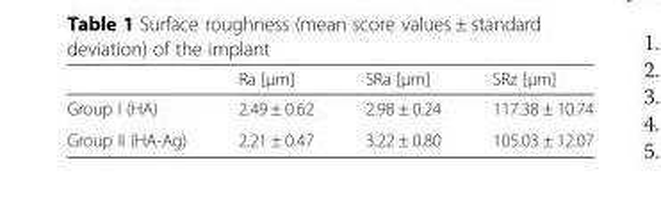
<table><thead><tr><td></td><td>Ra [μm]</td><td>SRa [μm]</td><td>SRz [μm]</td></tr></thead><tbody><tr><td>Group I (HA)</td><td>2.49 ± 0.62</td><td>2.98 ± 0.24</td><td>117.38 ± 10.74</td></tr><tr><td>Group II (HA-Ag)</td><td>2.21 ± 0.47</td><td>3.22 ± 0.80</td><td>105.03 ± 12.07</td></tr></tbody></table>